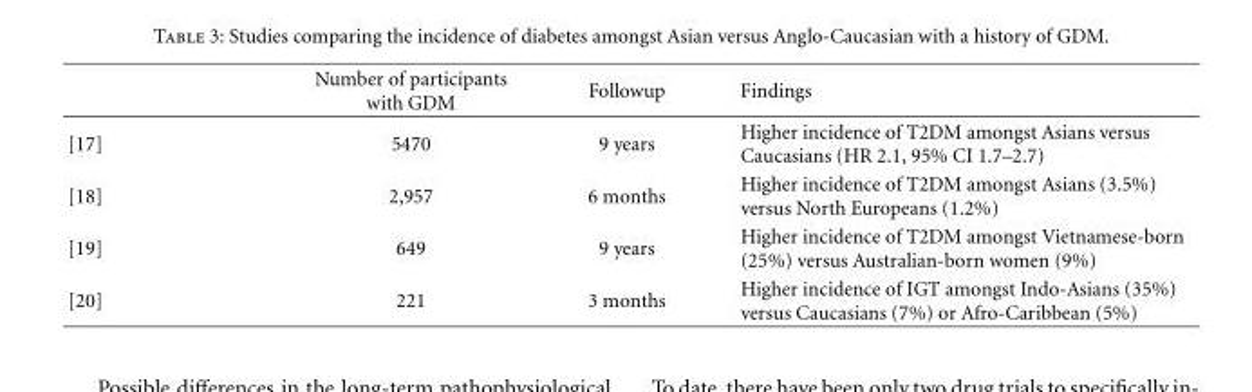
<table><thead><tr><td></td><td>Number of participants with GDM</td><td>Followup</td><td>Findings</td></tr></thead><tbody><tr><td>[17]</td><td>5470</td><td>9 years</td><td>Higher incidence of T2DM amongst Asians versus Caucasians (HR 2.1, 95% CI 1.7–2.7)</td></tr><tr><td>[18]</td><td>2,957</td><td>6 months</td><td>Higher incidence of T2DM amongst Asians (3.5%) versus North Europeans (1.2%)</td></tr><tr><td>[19]</td><td>649</td><td>9 years</td><td>Higher incidence of T2DM amongst Vietnamese-born (25%) versus Australian-born women (9%)</td></tr><tr><td>[20]</td><td>221</td><td>3 months</td><td>Higher incidence of IGT amongst Indo-Asians (35%) versus Caucasians (7%) or Afro-Caribbean (5%)</td></tr></tbody></table>